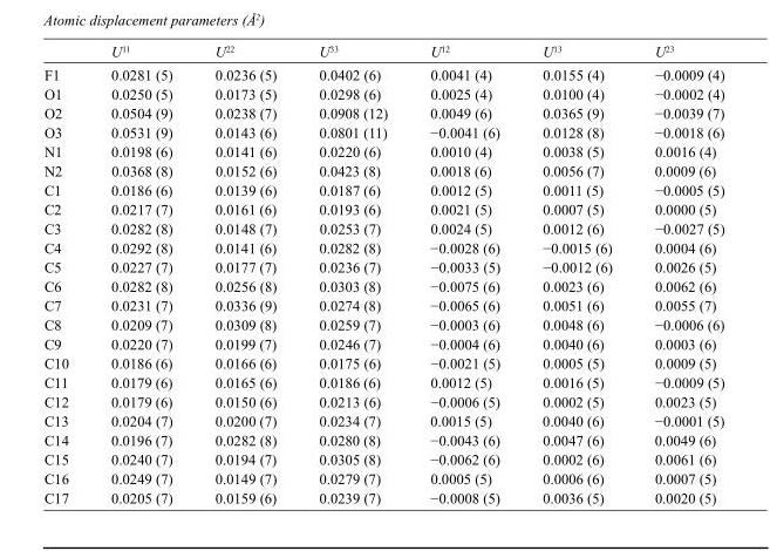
<table><thead><tr><td></td><td>U<sup>11</sup></td><td>U<sup>22</sup></td><td>U<sup>33</sup></td><td>U<sup>12</sup></td><td>U<sup>13</sup></td><td>U<sup>23</sup></td></tr></thead><tbody><tr><td>F1</td><td>0.0281 (5)</td><td>0.0236 (5)</td><td>0.0402 (6)</td><td>0.0041 (4)</td><td>0.0155 (4)</td><td>−0.0009 (4)</td></tr><tr><td>O1</td><td>0.0250 (5)</td><td>0.0173 (5)</td><td>0.0298 (6)</td><td>0.0025 (4)</td><td>0.0100 (4)</td><td>−0.0002 (4)</td></tr><tr><td>O2</td><td>0.0504 (9)</td><td>0.0238 (7)</td><td>0.0908 (12)</td><td>0.0049 (6)</td><td>0.0365 (9)</td><td>−0.0039 (7)</td></tr><tr><td>O3</td><td>0.0531 (9)</td><td>0.0143 (6)</td><td>0.0801 (11)</td><td>−0.0041 (6)</td><td>0.0128 (8)</td><td>−0.0018 (6)</td></tr><tr><td>N1</td><td>0.0198 (6)</td><td>0.0141 (6)</td><td>0.0220 (6)</td><td>0.0010 (4)</td><td>0.0038 (5)</td><td>0.0016 (4)</td></tr><tr><td>N2</td><td>0.0368 (8)</td><td>0.0152 (6)</td><td>0.0423 (8)</td><td>0.0018 (6)</td><td>0.0056 (7)</td><td>0.0009 (6)</td></tr><tr><td>C1</td><td>0.0186 (6)</td><td>0.0139 (6)</td><td>0.0187 (6)</td><td>0.0012 (5)</td><td>0.0011 (5)</td><td>−0.0005 (5)</td></tr><tr><td>C2</td><td>0.0217 (7)</td><td>0.0161 (6)</td><td>0.0193 (6)</td><td>0.0021 (5)</td><td>0.0007 (5)</td><td>0.0000 (5)</td></tr><tr><td>C3</td><td>0.0282 (8)</td><td>0.0148 (7)</td><td>0.0253 (7)</td><td>0.0024 (5)</td><td>0.0012 (6)</td><td>−0.0027 (5)</td></tr><tr><td>C4</td><td>0.0292 (8)</td><td>0.0141 (6)</td><td>0.0282 (8)</td><td>−0.0028 (6)</td><td>−0.0015 (6)</td><td>0.0004 (6)</td></tr><tr><td>C5</td><td>0.0227 (7)</td><td>0.0177 (7)</td><td>0.0236 (7)</td><td>−0.0033 (5)</td><td>−0.0012 (6)</td><td>0.0026 (5)</td></tr><tr><td>C6</td><td>0.0282 (8)</td><td>0.0256 (8)</td><td>0.0303 (8)</td><td>−0.0075 (6)</td><td>0.0023 (6)</td><td>0.0062 (6)</td></tr><tr><td>C7</td><td>0.0231 (7)</td><td>0.0336 (9)</td><td>0.0274 (8)</td><td>−0.0065 (6)</td><td>0.0051 (6)</td><td>0.0055 (7)</td></tr><tr><td>C8</td><td>0.0209 (7)</td><td>0.0309 (8)</td><td>0.0259 (7)</td><td>−0.0003 (6)</td><td>0.0048 (6)</td><td>−0.0006 (6)</td></tr><tr><td>C9</td><td>0.0220 (7)</td><td>0.0199 (7)</td><td>0.0246 (7)</td><td>−0.0004 (6)</td><td>0.0040 (6)</td><td>0.0003 (6)</td></tr><tr><td>C10</td><td>0.0186 (6)</td><td>0.0166 (6)</td><td>0.0175 (6)</td><td>−0.0021 (5)</td><td>0.0005 (5)</td><td>0.0009 (5)</td></tr><tr><td>C11</td><td>0.0179 (6)</td><td>0.0165 (6)</td><td>0.0186 (6)</td><td>0.0012 (5)</td><td>0.0016 (5)</td><td>−0.0009 (5)</td></tr><tr><td>C12</td><td>0.0179 (6)</td><td>0.0150 (6)</td><td>0.0213 (6)</td><td>−0.0006 (5)</td><td>0.0002 (5)</td><td>0.0023 (5)</td></tr><tr><td>C13</td><td>0.0204 (7)</td><td>0.0200 (7)</td><td>0.0234 (7)</td><td>0.0015 (5)</td><td>0.0040 (6)</td><td>−0.0001 (5)</td></tr><tr><td>C14</td><td>0.0196 (7)</td><td>0.0282 (8)</td><td>0.0280 (8)</td><td>−0.0043 (6)</td><td>0.0047 (6)</td><td>0.0049 (6)</td></tr><tr><td>C15</td><td>0.0240 (7)</td><td>0.0194 (7)</td><td>0.0305 (8)</td><td>−0.0062 (6)</td><td>0.0002 (6)</td><td>0.0061 (6)</td></tr><tr><td>C16</td><td>0.0249 (7)</td><td>0.0149 (7)</td><td>0.0279 (7)</td><td>0.0005 (5)</td><td>0.0006 (6)</td><td>0.0007 (5)</td></tr><tr><td>C17</td><td>0.0205 (7)</td><td>0.0159 (6)</td><td>0.0239 (7)</td><td>−0.0008 (5)</td><td>0.0036 (5)</td><td>0.0020 (5)</td></tr></tbody></table>